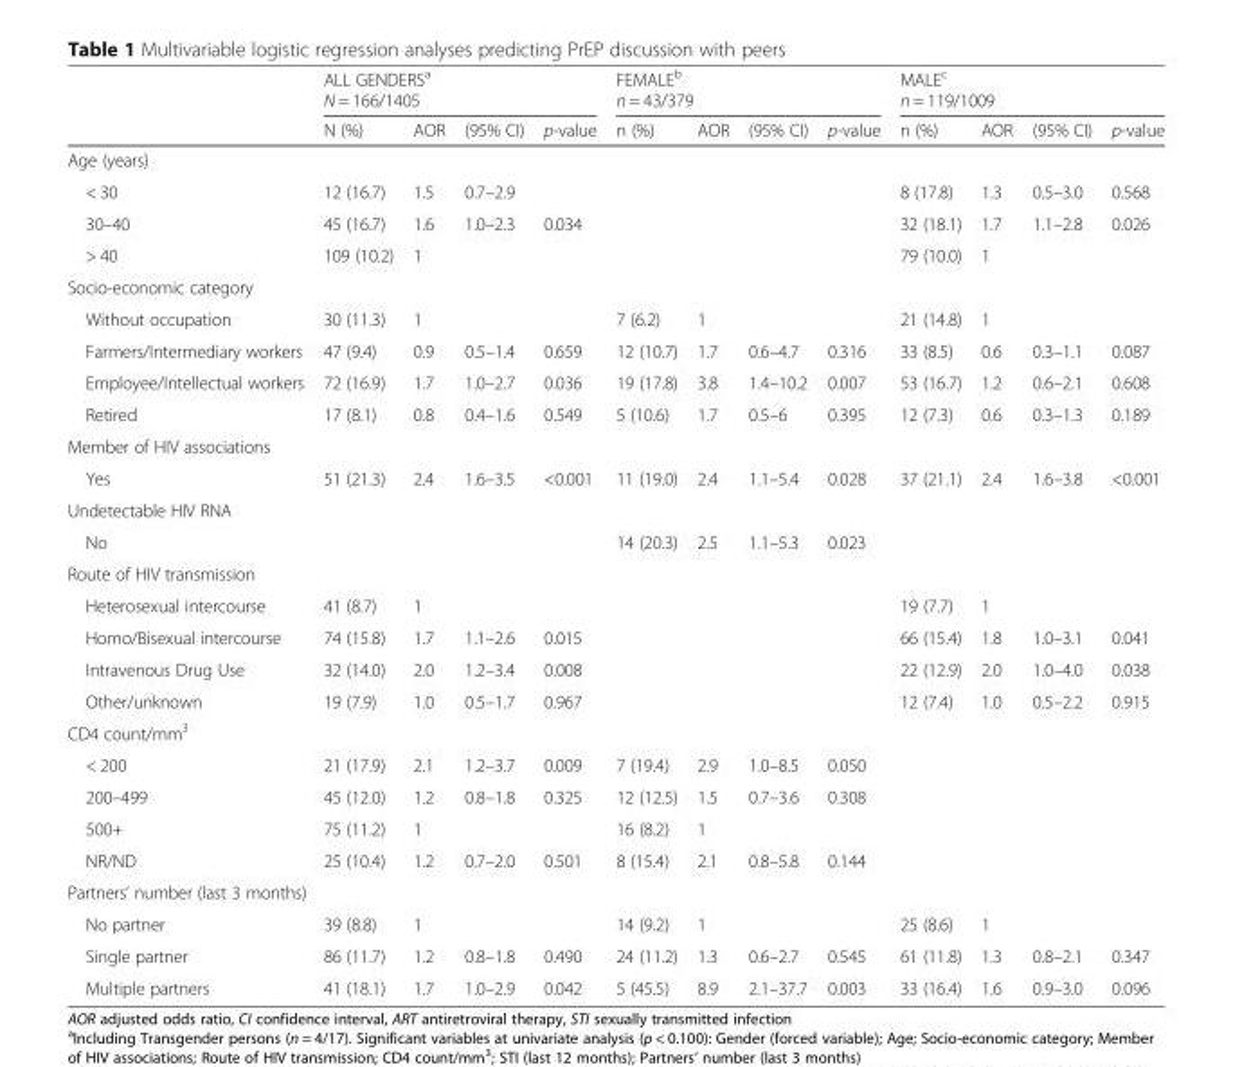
<table><thead><tr><td rowspan="2"></td><td colspan="4">ALL GENDERS<sup>a</sup> N = 166/1405</td><td colspan="4">FEMALE<sup>b</sup> n = 43/379</td><td colspan="4">MALE<sup>c</sup> n = 119/1009</td></tr><tr><td>N (%)</td><td>AOR</td><td>(95% CI)</td><td>p-value</td><td>n (%)</td><td>AOR</td><td>(95% CI)</td><td>p-value</td><td>n (%)</td><td>AOR</td><td>(95% CI)</td><td>p-value</td></tr></thead><tbody><tr><td colspan="13">Age (years)</td></tr><tr><td>&lt; 30</td><td>12 (16.7)</td><td>1.5</td><td>0.7–2.9</td><td></td><td></td><td></td><td></td><td></td><td>8 (17.8)</td><td>1.3</td><td>0.5–3.0</td><td>0.568</td></tr><tr><td>30–40</td><td>45 (16.7)</td><td>1.6</td><td>1.0–2.3</td><td>0.034</td><td></td><td></td><td></td><td></td><td>32 (18.1)</td><td>1.7</td><td>1.1–2.8</td><td>0.026</td></tr><tr><td>&gt; 40</td><td>109 (10.2)</td><td>1</td><td></td><td></td><td></td><td></td><td></td><td></td><td>79 (10.0)</td><td>1</td><td></td><td></td></tr><tr><td colspan="13">Socio-economic category</td></tr><tr><td>Without occupation</td><td>30 (11.3)</td><td>1</td><td></td><td></td><td>7 (6.2)</td><td>1</td><td></td><td></td><td>21 (14.8)</td><td>1</td><td></td><td></td></tr><tr><td>Farmers/Intermediary workers</td><td>47 (9.4)</td><td>0.9</td><td>0.5–1.4</td><td>0.659</td><td>12 (10.7)</td><td>1.7</td><td>0.6–4.7</td><td>0.316</td><td>33 (8.5)</td><td>0.6</td><td>0.3–1.1</td><td>0.087</td></tr><tr><td>Employee/Intellectual workers</td><td>72 (16.9)</td><td>1.7</td><td>1.0–2.7</td><td>0.036</td><td>19 (17.8)</td><td>3.8</td><td>1.4–10.2</td><td>0.007</td><td>53 (16.7)</td><td>1.2</td><td>0.6–2.1</td><td>0.608</td></tr><tr><td>Retired</td><td>17 (8.1)</td><td>0.8</td><td>0.4–1.6</td><td>0.549</td><td>5 (10.6)</td><td>1.7</td><td>0.5–6</td><td>0.395</td><td>12 (7.3)</td><td>0.6</td><td>0.3–1.3</td><td>0.189</td></tr><tr><td colspan="13">Member of HIV associations</td></tr><tr><td>Yes</td><td>51 (21.3)</td><td>2.4</td><td>1.6–3.5</td><td>&lt;0.001</td><td>11 (19.0)</td><td>2.4</td><td>1.1–5.4</td><td>0.028</td><td>37 (21.1)</td><td>2.4</td><td>1.6–3.8</td><td>&lt;0.001</td></tr><tr><td colspan="13">Undetectable HIV RNA</td></tr><tr><td>No</td><td></td><td></td><td></td><td></td><td>14 (20.3)</td><td>2.5</td><td>1.1–5.3</td><td>0.023</td><td></td><td></td><td></td><td></td></tr><tr><td colspan="13">Route of HIV transmission</td></tr><tr><td>Heterosexual intercourse</td><td>41 (8.7)</td><td>1</td><td></td><td></td><td></td><td></td><td></td><td></td><td>19 (7.7)</td><td>1</td><td></td><td></td></tr><tr><td>Homo/Bisexual intercourse</td><td>74 (15.8)</td><td>1.7</td><td>1.1–2.6</td><td>0.015</td><td></td><td></td><td></td><td></td><td>66 (15.4)</td><td>1.8</td><td>1.0–3.1</td><td>0.041</td></tr><tr><td>Intravenous Drug Use</td><td>32 (14.0)</td><td>2.0</td><td>1.2–3.4</td><td>0.008</td><td></td><td></td><td></td><td></td><td>22 (12.9)</td><td>2.0</td><td>1.0–4.0</td><td>0.038</td></tr><tr><td>Other/unknown</td><td>19 (7.9)</td><td>1.0</td><td>0.5–1.7</td><td>0.967</td><td></td><td></td><td></td><td></td><td>12 (7.4)</td><td>1.0</td><td>0.5–2.2</td><td>0.915</td></tr><tr><td colspan="13">CD4 count/mm<sup>3</sup></td></tr><tr><td>&lt; 200</td><td>21 (17.9)</td><td>2.1</td><td>1.2–3.7</td><td>0.009</td><td>7 (19.4)</td><td>2.9</td><td>1.0–8.5</td><td>0.050</td><td></td><td></td><td></td><td></td></tr><tr><td>200–499</td><td>45 (12.0)</td><td>1.2</td><td>0.8–1.8</td><td>0.325</td><td>12 (12.5)</td><td>1.5</td><td>0.7–3.6</td><td>0.308</td><td></td><td></td><td></td><td></td></tr><tr><td>500+</td><td>75 (11.2)</td><td>1</td><td></td><td></td><td>16 (8.2)</td><td>1</td><td></td><td></td><td></td><td></td><td></td><td></td></tr><tr><td>NR/ND</td><td>25 (10.4)</td><td>1.2</td><td>0.7–2.0</td><td>0.501</td><td>8 (15.4)</td><td>2.1</td><td>0.8–5.8</td><td>0.144</td><td></td><td></td><td></td><td></td></tr><tr><td colspan="13">Partners’ number (last 3 months)</td></tr><tr><td>No partner</td><td>39 (8.8)</td><td>1</td><td></td><td></td><td>14 (9.2)</td><td>1</td><td></td><td></td><td>25 (8.6)</td><td>1</td><td></td><td></td></tr><tr><td>Single partner</td><td>86 (11.7)</td><td>1.2</td><td>0.8–1.8</td><td>0.490</td><td>24 (11.2)</td><td>1.3</td><td>0.6–2.7</td><td>0.545</td><td>61 (11.8)</td><td>1.3</td><td>0.8–2.1</td><td>0.347</td></tr><tr><td>Multiple partners</td><td>41 (18.1)</td><td>1.7</td><td>1.0–2.9</td><td>0.042</td><td>5 (45.5)</td><td>8.9</td><td>2.1–37.7</td><td>0.003</td><td>33 (16.4)</td><td>1.6</td><td>0.9–3.0</td><td>0.096</td></tr></tbody></table>